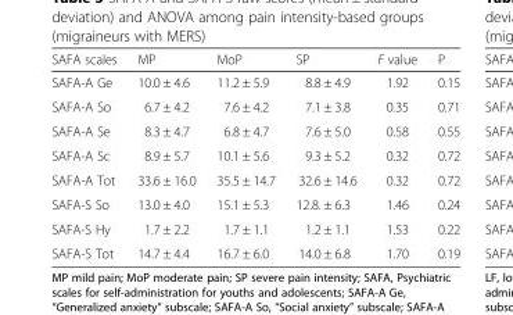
<table><thead><tr><td>SAFA scales</td><td>MP</td><td>MoP</td><td>SP</td><td>F value</td><td>P</td></tr></thead><tbody><tr><td>SAFA-A Ge</td><td>10.0 ± 4.6</td><td>11.2 ± 5.9</td><td>8.8 ± 4.9</td><td>1.92</td><td>0.15</td></tr><tr><td>SAFA-A So</td><td>6.7 ± 4.2</td><td>7.6 ± 4.2</td><td>7.1 ± 3.8</td><td>0.35</td><td>0.71</td></tr><tr><td>SAFA-A Se</td><td>8.3 ± 4.7</td><td>6.8 ± 4.7</td><td>7.6 ± 5.0</td><td>0.58</td><td>0.55</td></tr><tr><td>SAFA-A Sc</td><td>8.9 ± 5.7</td><td>10.1 ± 5.6</td><td>9.3 ± 5.2</td><td>0.32</td><td>0.72</td></tr><tr><td>SAFA-A Tot</td><td>33.6 ± 16.0</td><td>35.5 ± 14.7</td><td>32.6 ± 14.6</td><td>0.32</td><td>0.72</td></tr><tr><td>SAFA-S So</td><td>13.0 ± 4.0</td><td>15.1 ± 5.3</td><td>12.8. ± 6.3</td><td>1.46</td><td>0.24</td></tr><tr><td>SAFA-S Hy</td><td>1.7 ± 2.2</td><td>1.7 ± 1.1</td><td>1.2 ± 1.1</td><td>1.53</td><td>0.22</td></tr><tr><td>SAFA-S Tot</td><td>14.7 ± 4.4</td><td>16.7 ± 6.0</td><td>14.0 ± 6.8</td><td>1.70</td><td>0.19</td></tr></tbody></table>